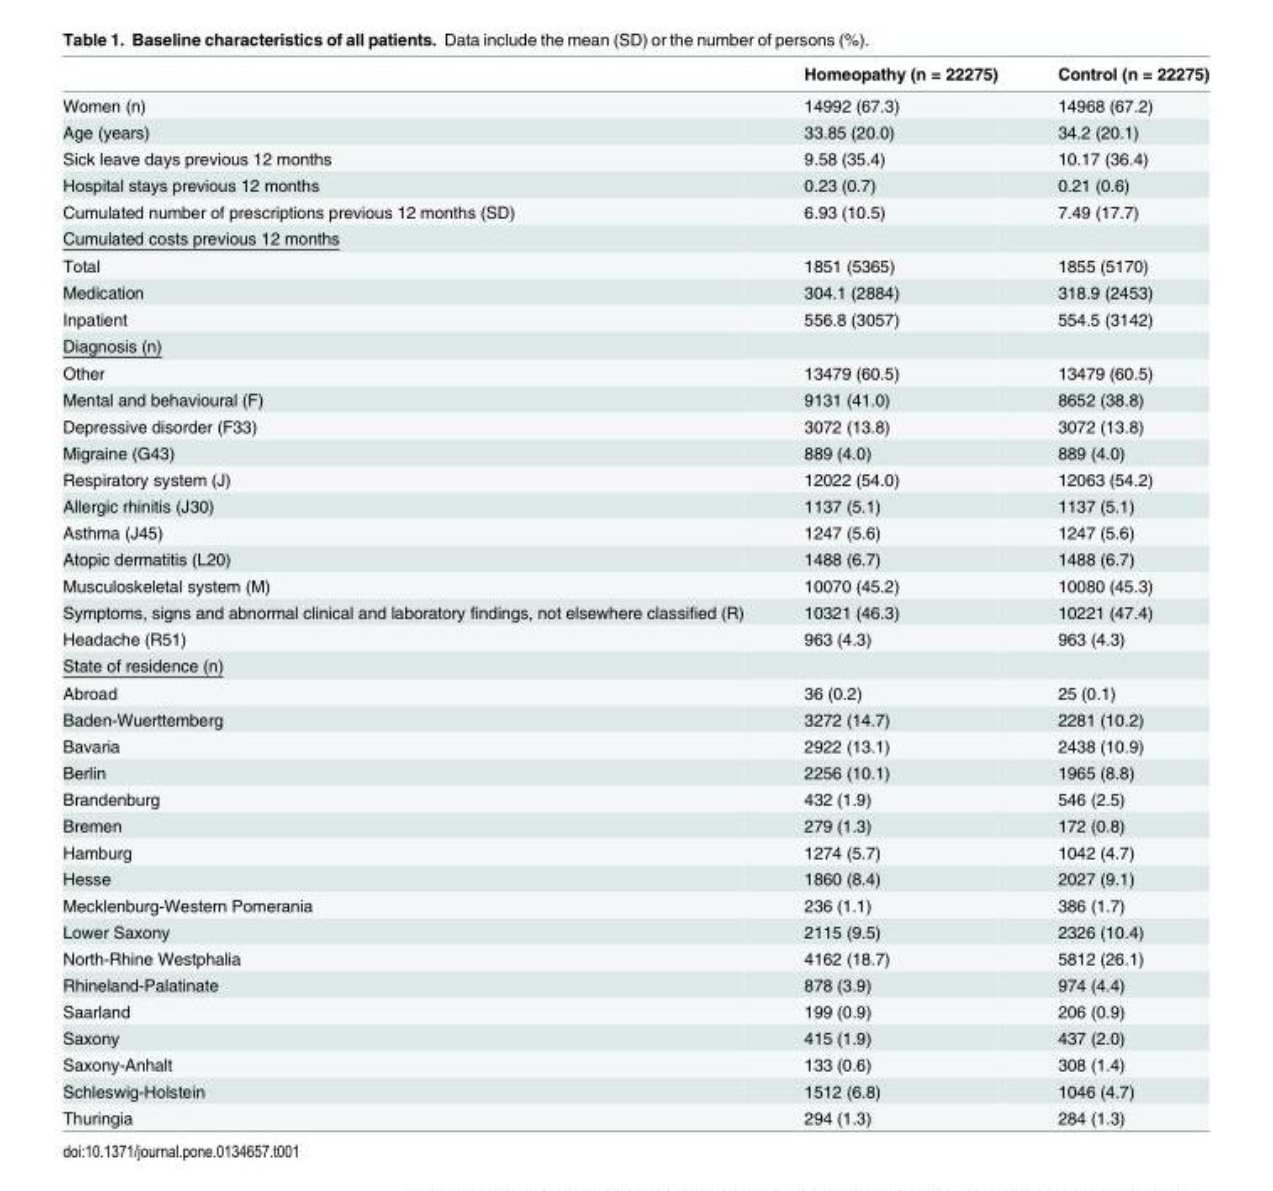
<table><thead><tr><td></td><td>Homeopathy (n = 22275)</td><td>Control (n = 22275)</td></tr></thead><tbody><tr><td>Women (n)</td><td>14992 (67.3)</td><td>14968 (67.2)</td></tr><tr><td>Age (years)</td><td>33.85 (20.0)</td><td>34.2 (20.1)</td></tr><tr><td>Sick leave days previous 12 months</td><td>9.58 (35.4)</td><td>10.17 (36.4)</td></tr><tr><td>Hospital stays previous 12 months</td><td>0.23 (0.7)</td><td>0.21 (0.6)</td></tr><tr><td>Cumulated number of prescriptions previous 12 months (SD)</td><td>6.93 (10.5)</td><td>7.49 (17.7)</td></tr><tr><td colspan="3">Cumulated costs previous 12 months</td></tr><tr><td>Total</td><td>1851 (5365)</td><td>1855 (5170)</td></tr><tr><td>Medication</td><td>304.1 (2884)</td><td>318.9 (2453)</td></tr><tr><td>Inpatient</td><td>556.8 (3057)</td><td>554.5 (3142)</td></tr><tr><td colspan="3">Diagnosis (n)</td></tr><tr><td>Other</td><td>13479 (60.5)</td><td>13479 (60.5)</td></tr><tr><td>Mental and behavioural (F)</td><td>9131 (41.0)</td><td>8652 (38.8)</td></tr><tr><td>Depressive disorder (F33)</td><td>3072 (13.8)</td><td>3072 (13.8)</td></tr><tr><td>Migraine (G43)</td><td>889 (4.0)</td><td>889 (4.0)</td></tr><tr><td>Respiratory system (J)</td><td>12022 (54.0)</td><td>12063 (54.2)</td></tr><tr><td>Allergic rhinitis (J30)</td><td>1137 (5.1)</td><td>1137 (5.1)</td></tr><tr><td>Asthma (J45)</td><td>1247 (5.6)</td><td>1247 (5.6)</td></tr><tr><td>Atopic dermatitis (L20)</td><td>1488 (6.7)</td><td>1488 (6.7)</td></tr><tr><td>Musculoskeletal system (M)</td><td>10070 (45.2)</td><td>10080 (45.3)</td></tr><tr><td>Symptoms, signs and abnormal clinical and laboratory findings, not elsewhere classified (R)</td><td>10321 (46.3)</td><td>10221 (47.4)</td></tr><tr><td>Headache (R51)</td><td>963 (4.3)</td><td>963 (4.3)</td></tr><tr><td colspan="3">State of residence (n)</td></tr><tr><td>Abroad</td><td>36 (0.2)</td><td>25 (0.1)</td></tr><tr><td>Baden-Wuerttemberg</td><td>3272 (14.7)</td><td>2281 (10.2)</td></tr><tr><td>Bavaria</td><td>2922 (13.1)</td><td>2438 (10.9)</td></tr><tr><td>Berlin</td><td>2256 (10.1)</td><td>1965 (8.8)</td></tr><tr><td>Brandenburg</td><td>432 (1.9)</td><td>546 (2.5)</td></tr><tr><td>Bremen</td><td>279 (1.3)</td><td>172 (0.8)</td></tr><tr><td>Hamburg</td><td>1274 (5.7)</td><td>1042 (4.7)</td></tr><tr><td>Hesse</td><td>1860 (8.4)</td><td>2027 (9.1)</td></tr><tr><td>Mecklenburg-Western Pomerania</td><td>236 (1.1)</td><td>386 (1.7)</td></tr><tr><td>Lower Saxony</td><td>2115 (9.5)</td><td>2326 (10.4)</td></tr><tr><td>North-Rhine Westphalia</td><td>4162 (18.7)</td><td>5812 (26.1)</td></tr><tr><td>Rhineland-Palatinate</td><td>878 (3.9)</td><td>974 (4.4)</td></tr><tr><td>Saarland</td><td>199 (0.9)</td><td>206 (0.9)</td></tr><tr><td>Saxony</td><td>415 (1.9)</td><td>437 (2.0)</td></tr><tr><td>Saxony-Anhalt</td><td>133 (0.6)</td><td>308 (1.4)</td></tr><tr><td>Schleswig-Holstein</td><td>1512 (6.8)</td><td>1046 (4.7)</td></tr><tr><td>Thuringia</td><td>294 (1.3)</td><td>284 (1.3)</td></tr></tbody></table>